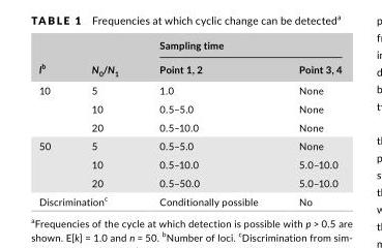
<table><thead><tr><td rowspan="2">lb</td><td rowspan="2">N<sub>0</sub>/N<sub>1</sub></td><td colspan="2">Sampling time</td></tr><tr><td>Point 1, 2</td><td>Point 3, 4</td></tr></thead><tbody><tr><td rowspan="3">10</td><td>5</td><td>1.0</td><td>None</td></tr><tr><td>10</td><td>0.5–5.0</td><td>None</td></tr><tr><td>20</td><td>0.5–10.0</td><td>None</td></tr><tr><td rowspan="3">50</td><td>5</td><td>0.5–5.0</td><td>None</td></tr><tr><td>10</td><td>0.5–10.0</td><td>5.0–10.0</td></tr><tr><td>20</td><td>0.5–50.0</td><td>5.0–10.0</td></tr><tr><td colspan="2">Discrimination<sup>c</sup></td><td>Conditionally possible</td><td>No</td></tr></tbody></table>